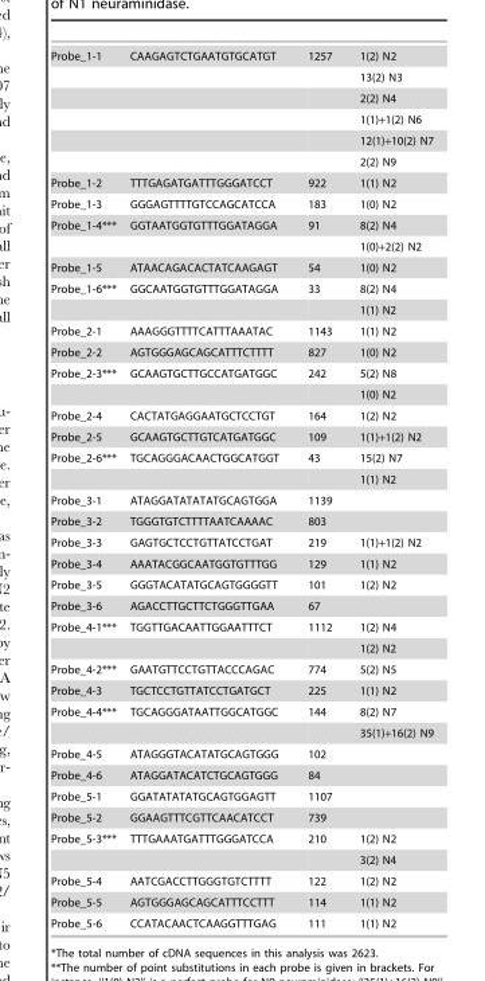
<table><tbody><tr><td rowspan="6">Probe_1-1</td><td>CAAGAGTCTGAATGTGCATGT</td><td>1257</td><td>1(2) N2</td></tr><tr><td></td><td></td><td>13(2) N3</td></tr><tr><td></td><td></td><td>2(2) N4</td></tr><tr><td></td><td></td><td>1(1)+1(2) N6</td></tr><tr><td></td><td></td><td>12(1)+10(2) N7</td></tr><tr><td></td><td></td><td>2(2) N9</td></tr><tr><td>Probe_1-2</td><td>TTTGAGATGATTTGGGATCCT</td><td>922</td><td>1(1) N2</td></tr><tr><td>Probe_1-3</td><td>GGGAGTTTTGTCCAGCATCCA</td><td>183</td><td>1(0) N2</td></tr><tr><td rowspan="2">Probe_1-4***</td><td>GGTAATGGTGTTTGGATAGGA</td><td>91</td><td>8(2) N4</td></tr><tr><td></td><td></td><td>1(0)+2(2) N2</td></tr><tr><td>Probe_1-5</td><td>ATAACAGACACTATCAAGAGT</td><td>54</td><td>1(0) N2</td></tr><tr><td rowspan="2">Probe_1-6***</td><td>GGCAATGGTGTTTGGATAGGA</td><td>33</td><td>8(2) N4</td></tr><tr><td></td><td></td><td>1(1) N2</td></tr><tr><td>Probe_2-1</td><td>AAAGGGTTTTCATTTAAATAC</td><td>1143</td><td>1(1) N2</td></tr><tr><td>Probe_2-2</td><td>AGTGGGAGCAGCATTTCTTTT</td><td>827</td><td>1(0) N2</td></tr><tr><td rowspan="2">Probe_2-3***</td><td>GCAAGTGCTTGCCATGATGGC</td><td>242</td><td>5(2) N8</td></tr><tr><td></td><td></td><td>1(0) N2</td></tr><tr><td>Probe_2-4</td><td>CACTATGAGGAATGCTCCTGT</td><td>164</td><td>1(2) N2</td></tr><tr><td>Probe_2-5</td><td>GCAAGTGCTTGTCATGATGGC</td><td>109</td><td>1(1)+1(2) N2</td></tr><tr><td rowspan="2">Probe_2-6***</td><td>TGCAGGGACAACTGGCATGGT</td><td>43</td><td>15(2) N7</td></tr><tr><td></td><td></td><td>1(1) N2</td></tr><tr><td>Probe_3-1</td><td>ATAGGATATATATGCAGTGGA</td><td>1139</td><td></td></tr><tr><td>Probe_3-2</td><td>TGGGTGTCTTTTAATCAAAAC</td><td>803</td><td></td></tr><tr><td>Probe_3-3</td><td>GAGTGCTCCTGTTATCCTGAT</td><td>219</td><td>1(1)+1(2) N2</td></tr><tr><td>Probe_3-4</td><td>AAATACGGCAATGGTGTTTGG</td><td>129</td><td>1(1) N2</td></tr><tr><td>Probe_3-5</td><td>GGGTACATATGCAGTGGGGTT</td><td>101</td><td>1(2) N2</td></tr><tr><td>Probe_3-6</td><td>AGACCTTGCTTCTGGGTTGAA</td><td>67</td><td></td></tr><tr><td rowspan="2">Probe_4-1***</td><td>TGGTTGACAATTGGAATTTCT</td><td>1112</td><td>1(2) N4</td></tr><tr><td></td><td></td><td>1(2) N2</td></tr><tr><td>Probe_4-2***</td><td>GAATGTTCCTGTTACCCAGAC</td><td>774</td><td>5(2) N5</td></tr><tr><td>Probe_4-3</td><td>TGCTCCTGTTATCCTGATGCT</td><td>225</td><td>1(1) N2</td></tr><tr><td rowspan="2">Probe_4-4***</td><td>TGCAGGGATAATTGGCATGGC</td><td>144</td><td>8(2) N7</td></tr><tr><td></td><td></td><td>35(1)+16(2) N9</td></tr><tr><td>Probe_4-5</td><td>ATAGGGTACATATGCAGTGGG</td><td>102</td><td></td></tr><tr><td>Probe_4-6</td><td>ATAGGATACATCTGCAGTGGG</td><td>84</td><td></td></tr><tr><td>Probe_5-1</td><td>GGATATATATGCAGTGGAGTT</td><td>1107</td><td></td></tr><tr><td>Probe_5-2</td><td>GGAAGTTTCGTTCAACATCCT</td><td>739</td><td></td></tr><tr><td rowspan="2">Probe_5-3***</td><td>TTTGAAATGATTTGGGATCCA</td><td>210</td><td>1(2) N2</td></tr><tr><td></td><td></td><td>3(2) N4</td></tr><tr><td>Probe_5-4</td><td>AATCGACCTTGGGTGTCTTTT</td><td>122</td><td>1(2) N2</td></tr><tr><td>Probe_5-5</td><td>AGTGGGAGCAGCATTTCCTTT</td><td>114</td><td>1(1) N2</td></tr><tr><td>Probe_5-6</td><td>CCATACAACTCAAGGTTTGAG</td><td>111</td><td>1(1) N2</td></tr></tbody></table>